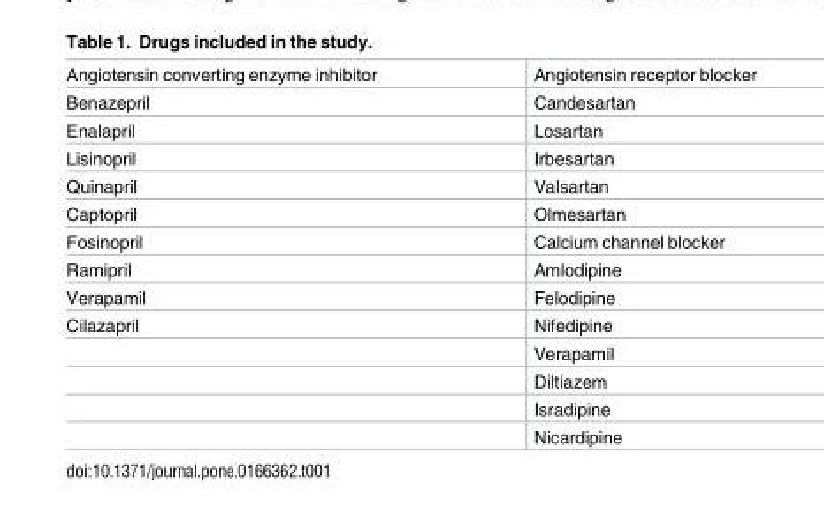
<table><tbody><tr><td>Angiotensin converting enzyme inhibitor</td><td>Angiotensin receptor blocker</td></tr><tr><td>Benazepril</td><td>Candesartan</td></tr><tr><td>Enalapril</td><td>Losartan</td></tr><tr><td>Lisinopril</td><td>Irbesartan</td></tr><tr><td>Quinapril</td><td>Valsartan</td></tr><tr><td>Captopril</td><td>Olmesartan</td></tr><tr><td>Fosinopril</td><td>Calcium channel blocker</td></tr><tr><td>Ramipril</td><td>Amlodipine</td></tr><tr><td>Verapamil</td><td>Felodipine</td></tr><tr><td rowspan="5">Cilazapril</td><td>Nifedipine</td></tr><tr><td>Verapamil</td></tr><tr><td>Diltiazem</td></tr><tr><td>Isradipine</td></tr><tr><td>Nicardipine</td></tr></tbody></table>